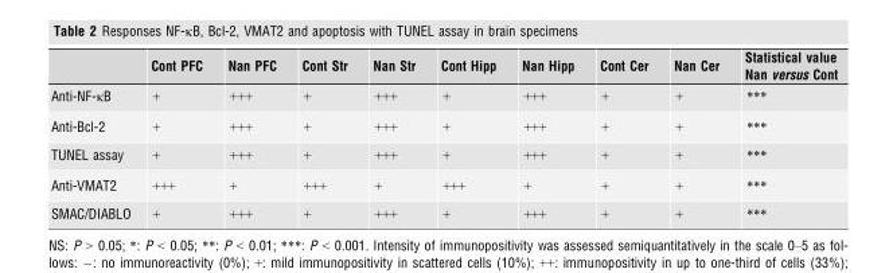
<table><thead><tr><td></td><td>Cont PFC</td><td>Nan PFC</td><td>Cont Str</td><td>Nan Str</td><td>Cont Hipp</td><td>Nan Hipp</td><td>Cont Cer</td><td>Nan Cer</td><td>Statistical value Nan versus Cont</td></tr></thead><tbody><tr><td>Anti-NF-κB</td><td>+</td><td>+++</td><td>+</td><td>+++</td><td>+</td><td>+++</td><td>+</td><td>+</td><td>***</td></tr><tr><td>Anti-Bcl-2</td><td>+</td><td>+++</td><td>+</td><td>+++</td><td>+</td><td>+++</td><td>+</td><td>+</td><td>***</td></tr><tr><td>TUNEL assay</td><td>+</td><td>+++</td><td>+</td><td>+++</td><td>+</td><td>+++</td><td>+</td><td>+</td><td>***</td></tr><tr><td>Anti-VMAT2</td><td>+++</td><td>+</td><td>+++</td><td>+</td><td>+++</td><td>+</td><td>+</td><td>+</td><td>***</td></tr><tr><td>SMAC/DIABLO</td><td>+</td><td>+++</td><td>+</td><td>+++</td><td>+</td><td>+++</td><td>+</td><td>+</td><td>***</td></tr></tbody></table>